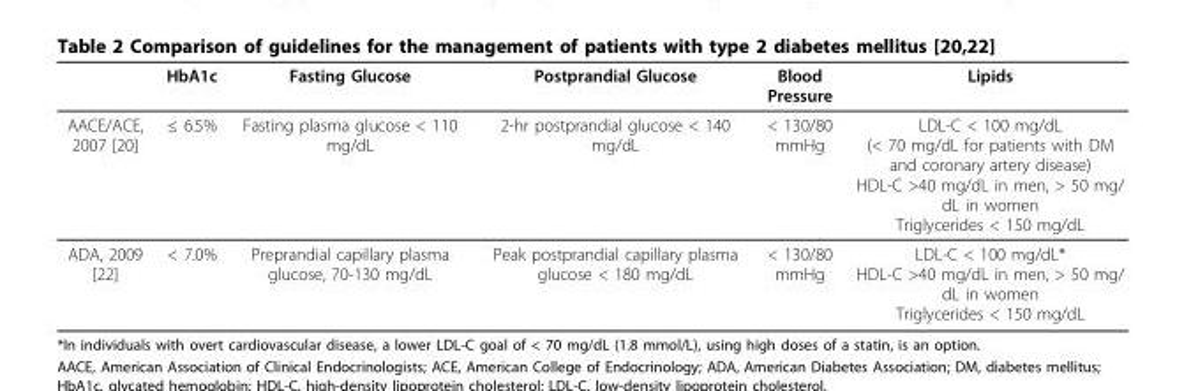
<table><thead><tr><td></td><td>HbA1c</td><td>Fasting Glucose</td><td>Postprandial Glucose</td><td>Blood Pressure</td><td>Lipids</td></tr></thead><tbody><tr><td>AACE/ACE, 2007 [20]</td><td>≤ 6.5%</td><td>Fasting plasma glucose &lt; 110 mg/dL</td><td>2-hr postprandial glucose &lt; 140 mg/dL</td><td>&lt; 130/80 mmHg</td><td>LDL-C &lt; 100 mg/dL (&lt; 70 mg/dL for patients with DM and coronary artery disease) HDL-C &gt;40 mg/dL in men, &gt; 50 mg/ dL in women Triglycerides &lt; 150 mg/dL</td></tr><tr><td>ADA, 2009 [22]</td><td>&lt; 7.0%</td><td>Preprandial capillary plasma glucose, 70-130 mg/dL</td><td>Peak postprandial capillary plasma glucose &lt; 180 mg/dL</td><td>&lt; 130/80 mmHg</td><td>LDL-C &lt; 100 mg/dL* HDL-C &gt;40 mg/dL in men, &gt; 50 mg/ dL in women Triglycerides &lt; 150 mg/dL</td></tr></tbody></table>